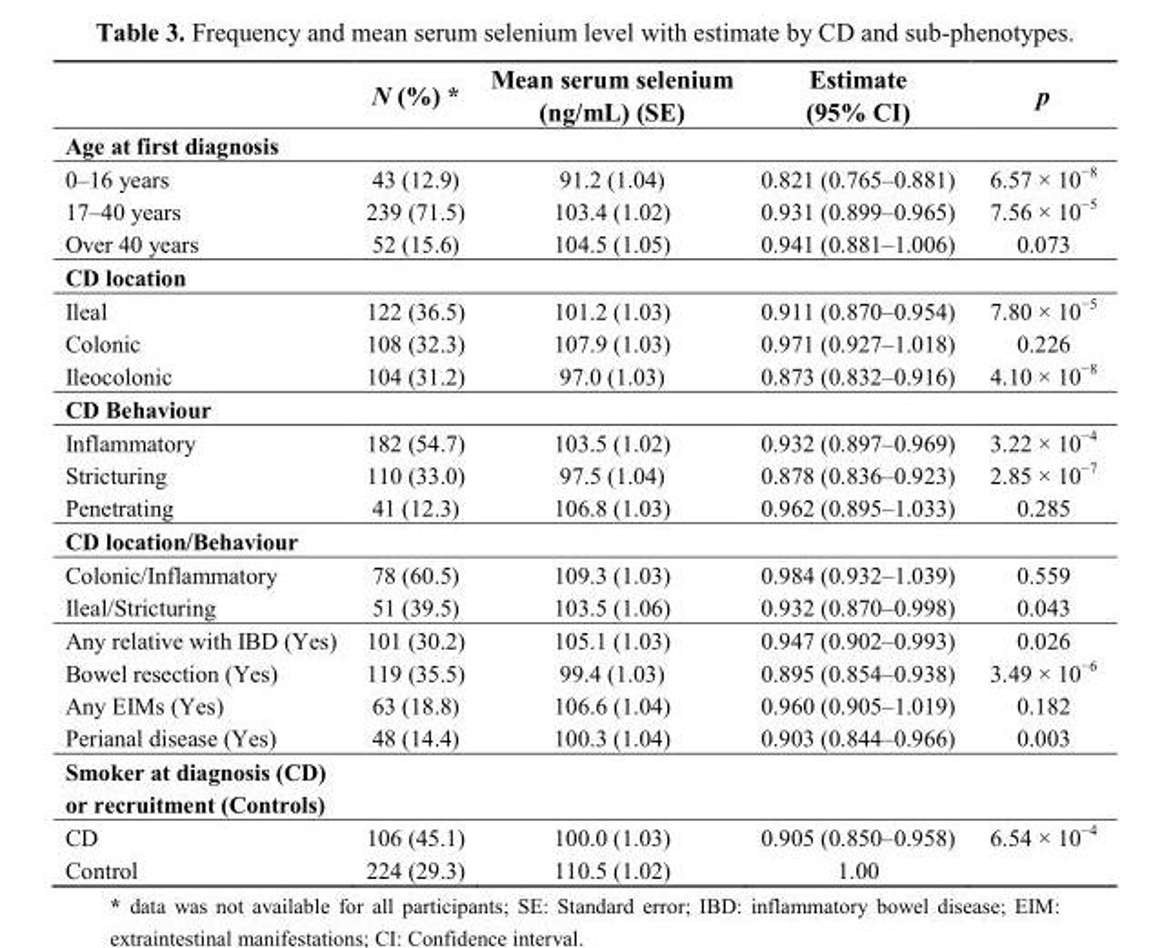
<table><thead><tr><td></td><td>N (%) *</td><td>Mean serum selenium (ng/mL) (SE)</td><td>Estimate (95% CI)</td><td>p</td></tr></thead><tbody><tr><td colspan="5">Age at first diagnosis</td></tr><tr><td>0–16 years</td><td>43 (12.9)</td><td>91.2 (1.04)</td><td>0.821 (0.765–0.881)</td><td>6.57 × 10<sup>−8</sup></td></tr><tr><td>17–40 years</td><td>239 (71.5)</td><td>103.4 (1.02)</td><td>0.931 (0.899–0.965)</td><td>7.56 × 10<sup>−5</sup></td></tr><tr><td>Over 40 years</td><td>52 (15.6)</td><td>104.5 (1.05)</td><td>0.941 (0.881–1.006)</td><td>0.073</td></tr><tr><td colspan="5">CD location</td></tr><tr><td>Ileal</td><td>122 (36.5)</td><td>101.2 (1.03)</td><td>0.911 (0.870–0.954)</td><td>7.80 × 10<sup>−5</sup></td></tr><tr><td>Colonic</td><td>108 (32.3)</td><td>107.9 (1.03)</td><td>0.971 (0.927–1.018)</td><td>0.226</td></tr><tr><td>Ileocolonic</td><td>104 (31.2)</td><td>97.0 (1.03)</td><td>0.873 (0.832–0.916)</td><td>4.10 × 10<sup>−8</sup></td></tr><tr><td colspan="5">CD Behaviour</td></tr><tr><td>Inflammatory</td><td>182 (54.7)</td><td>103.5 (1.02)</td><td>0.932 (0.897–0.969)</td><td>3.22 × 10<sup>−4</sup></td></tr><tr><td>Stricturing</td><td>110 (33.0)</td><td>97.5 (1.04)</td><td>0.878 (0.836–0.923)</td><td>2.85 × 10<sup>−7</sup></td></tr><tr><td>Penetrating</td><td>41 (12.3)</td><td>106.8 (1.03)</td><td>0.962 (0.895–1.033)</td><td>0.285</td></tr><tr><td colspan="5">CD location/Behaviour</td></tr><tr><td>Colonic/Inflammatory</td><td>78 (60.5)</td><td>109.3 (1.03)</td><td>0.984 (0.932–1.039)</td><td>0.559</td></tr><tr><td>Ileal/Stricturing</td><td>51 (39.5)</td><td>103.5 (1.06)</td><td>0.932 (0.870–0.998)</td><td>0.043</td></tr><tr><td>Any relative with IBD (Yes)</td><td>101 (30.2)</td><td>105.1 (1.03)</td><td>0.947 (0.902–0.993)</td><td>0.026</td></tr><tr><td>Bowel resection (Yes)</td><td>119 (35.5)</td><td>99.4 (1.03)</td><td>0.895 (0.854–0.938)</td><td>3.49 × 10<sup>−6</sup></td></tr><tr><td>Any EIMs (Yes)</td><td>63 (18.8)</td><td>106.6 (1.04)</td><td>0.960 (0.905–1.019)</td><td>0.182</td></tr><tr><td>Perianal disease (Yes)</td><td>48 (14.4)</td><td>100.3 (1.04)</td><td>0.903 (0.844–0.966)</td><td>0.003</td></tr><tr><td colspan="5">Smoker at diagnosis (CD) or recruitment (Controls)</td></tr><tr><td>CD</td><td>106 (45.1)</td><td>100.0 (1.03)</td><td>0.905 (0.850–0.958)</td><td>6.54 × 10<sup>−4</sup></td></tr><tr><td>Control</td><td>224 (29.3)</td><td>110.5 (1.02)</td><td>1.00</td><td></td></tr></tbody></table>